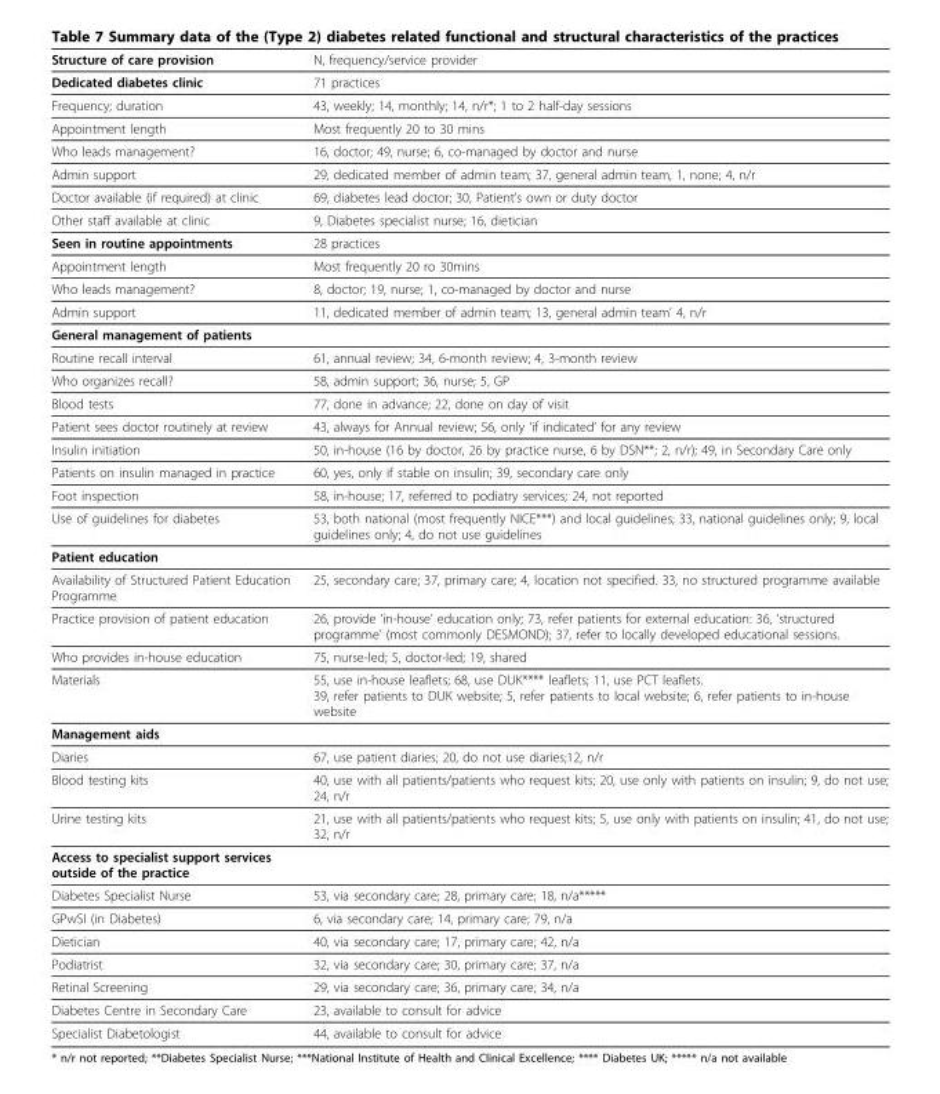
<table><thead><tr><td>Structure of care provision</td><td>N, frequency/service provider</td></tr></thead><tbody><tr><td>Dedicated diabetes clinic</td><td>71 practices</td></tr><tr><td>Frequency; duration</td><td>43, weekly; 14, monthly; 14, n/r*; 1 to 2 half-day sessions</td></tr><tr><td>Appointment length</td><td>Most frequently 20 to 30 mins</td></tr><tr><td>Who leads management?</td><td>16, doctor; 49, nurse; 6, co-managed by doctor and nurse</td></tr><tr><td>Admin support</td><td>29, dedicated member of admin team; 37, general admin team, 1, none; 4, n/r</td></tr><tr><td>Doctor available (if required) at clinic</td><td>69, diabetes lead doctor; 30, Patient’s own or duty doctor</td></tr><tr><td>Other staff available at clinic</td><td>9, Diabetes specialist nurse; 16, dietician</td></tr><tr><td>Seen in routine appointments</td><td>28 practices</td></tr><tr><td>Appointment length</td><td>Most frequently 20 ro 30mins</td></tr><tr><td>Who leads management?</td><td>8, doctor; 19, nurse; 1, co-managed by doctor and nurse</td></tr><tr><td>Admin support</td><td>11, dedicated member of admin team; 13, general admin team’ 4, n/r</td></tr><tr><td colspan="2">General management of patients</td></tr><tr><td>Routine recall interval</td><td>61, annual review; 34, 6-month review; 4, 3-month review</td></tr><tr><td>Who organizes recall?</td><td>58, admin support; 36, nurse; 5, GP</td></tr><tr><td>Blood tests</td><td>77, done in advance; 22, done on day of visit</td></tr><tr><td>Patient sees doctor routinely at review</td><td>43, always for Annual review; 56, only ‘if indicated’ for any review</td></tr><tr><td>Insulin initiation</td><td>50, in-house (16 by doctor, 26 by practice nurse, 6 by DSN**; 2, n/r); 49, in Secondary Care only</td></tr><tr><td>Patients on insulin managed in practice</td><td>60, yes, only if stable on insulin; 39, secondary care only</td></tr><tr><td>Foot inspection</td><td>58, in-house; 17, referred to podiatry services; 24, not reported</td></tr><tr><td>Use of guidelines for diabetes</td><td>53, both national (most frequently NICE***) and local guidelines; 33, national guidelines only; 9, local guidelines only; 4, do not use guidelines</td></tr><tr><td colspan="2">Patient education</td></tr><tr><td>Availability of Structured Patient Education Programme</td><td>25, secondary care; 37, primary care; 4, location not specified. 33, no structured programme available</td></tr><tr><td>Practice provision of patient education</td><td>26, provide ‘in-house’ education only; 73, refer patients for external education: 36, ‘structured programme’ (most commonly DESMOND); 37, refer to locally developed educational sessions.</td></tr><tr><td>Who provides in-house education</td><td>75, nurse-led; 5, doctor-led; 19, shared</td></tr><tr><td>Materials</td><td>55, use in-house leaflets; 68, use DUK**** leaflets; 11, use PCT leaflets. 39, refer patients to DUK website; 5, refer patients to local website; 6, refer patients to in-house website</td></tr><tr><td colspan="2">Management aids</td></tr><tr><td>Diaries</td><td>67, use patient diaries; 20, do not use diaries;12, n/r</td></tr><tr><td>Blood testing kits</td><td>40, use with all patients/patients who request kits; 20, use only with patients on insulin; 9, do not use; 24, n/r</td></tr><tr><td>Urine testing kits</td><td>21, use with all patients/patients who request kits; 5, use only with patients on insulin; 41, do not use; 32, n/r</td></tr><tr><td colspan="2">Access to specialist support services outside of the practice</td></tr><tr><td>Diabetes Specialist Nurse</td><td>53, via secondary care; 28, primary care; 18, n/a*****</td></tr><tr><td>GPwSI (in Diabetes)</td><td>6, via secondary care; 14, primary care; 79, n/a</td></tr><tr><td>Dietician</td><td>40, via secondary care; 17, primary care; 42, n/a</td></tr><tr><td>Podiatrist</td><td>32, via secondary care; 30, primary care; 37, n/a</td></tr><tr><td>Retinal Screening</td><td>29, via secondary care; 36, primary care; 34, n/a</td></tr><tr><td>Diabetes Centre in Secondary Care</td><td>23, available to consult for advice</td></tr><tr><td>Specialist Diabetologist</td><td>44, available to consult for advice</td></tr></tbody></table>